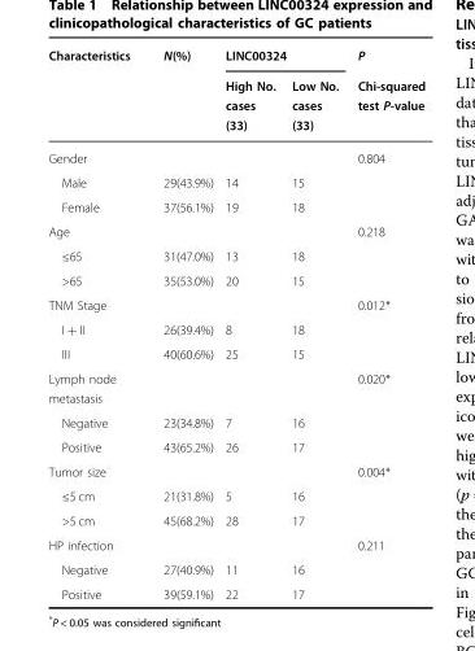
<table><thead><tr><td rowspan="2">Characteristics</td><td rowspan="2">N(%)</td><td colspan="2">LINC00324</td><td rowspan="2">P Chi-squared test P-value</td></tr><tr><td>High No. cases (33)</td><td>Low No. cases (33)</td></tr></thead><tbody><tr><td>Gender</td><td></td><td></td><td></td><td>0.804</td></tr><tr><td>Male</td><td>29(43.9%)</td><td>14</td><td>15</td><td></td></tr><tr><td>Female</td><td>37(56.1%)</td><td>19</td><td>18</td><td></td></tr><tr><td>Age</td><td></td><td></td><td></td><td>0.218</td></tr><tr><td>≤65</td><td>31(47.0%)</td><td>13</td><td>18</td><td></td></tr><tr><td>&gt;65</td><td>35(53.0%)</td><td>20</td><td>15</td><td></td></tr><tr><td>TNM Stage</td><td></td><td></td><td></td><td>0.012*</td></tr><tr><td>I + II</td><td>26(39.4%)</td><td>8</td><td>18</td><td></td></tr><tr><td>III</td><td>40(60.6%)</td><td>25</td><td>15</td><td></td></tr><tr><td>Lymph node metastasis</td><td></td><td></td><td></td><td>0.020*</td></tr><tr><td>Negative</td><td>23(34.8%)</td><td>7</td><td>16</td><td></td></tr><tr><td>Positive</td><td>43(65.2%)</td><td>26</td><td>17</td><td></td></tr><tr><td>Tumor size</td><td></td><td></td><td></td><td>0.004*</td></tr><tr><td>≤5 cm</td><td>21(31.8%)</td><td>5</td><td>16</td><td></td></tr><tr><td>&gt;5 cm</td><td>45(68.2%)</td><td>28</td><td>17</td><td></td></tr><tr><td>HP infection</td><td></td><td></td><td></td><td>0.211</td></tr><tr><td>Negative</td><td>27(40.9%)</td><td>11</td><td>16</td><td></td></tr><tr><td>Positive</td><td>39(59.1%)</td><td>22</td><td>17</td><td></td></tr></tbody></table>